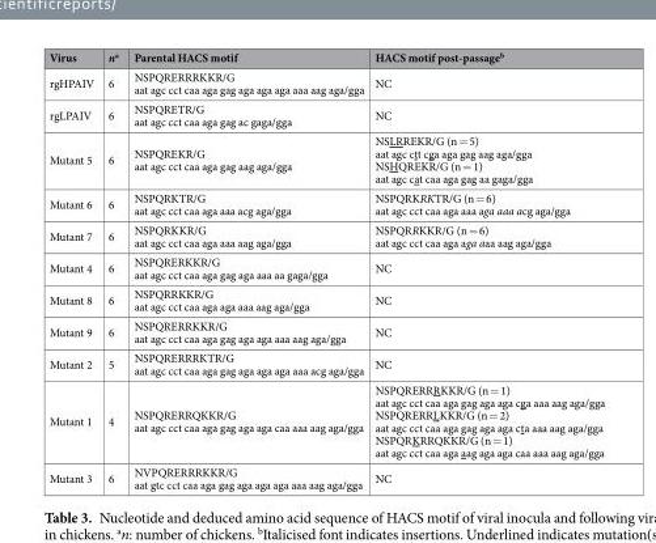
<table><thead><tr><td>Virus</td><td>n<sup>a</sup></td><td>Parental HACS motif</td><td>HACS motif post-passage<sup>b</sup></td></tr></thead><tbody><tr><td>rgHPAIV</td><td>6</td><td>NSPQRERRRKKR/G aat agc cct caa aga gag aga aga aga aaa aag aga/gga</td><td>NC</td></tr><tr><td>rgLPAIV</td><td>6</td><td>NSPQRETR/G aat agc cct caa aga gag ac gaga/gga</td><td>NC</td></tr><tr><td>Mutant 5</td><td>6</td><td>NSPQREKR/G aat agc cct caa aga gag aag aga/gga</td><td>NSLRREKR/G (n = 5) aat agc ctt cga aga gag aag aga/gga NSHQREKR/G (n = 1) aat agc cat caa aga gag aa gaga/gga</td></tr><tr><td>Mutant 6</td><td>6</td><td>NSPQRKTR/G aat agc cct caa aga aaa acg aga/gga</td><td>NSPQRKRKTR/G (n = 6) aat agc cct caa aga aaa aga aaa acg aga/gga</td></tr><tr><td>Mutant 7</td><td>6</td><td>NSPQRKKR/G aat agc cct caa aga aaa aag aga/gga</td><td>NSPQRRKKR/G (n = 6) aat agc cct caa aga aga aaa aag aga/gga</td></tr><tr><td>Mutant 4</td><td>6</td><td>NSPQRERKKR/G aat agc cct caa aga gag aga aaa aa gaga/gga</td><td>NC</td></tr><tr><td>Mutant 8</td><td>6</td><td>NSPQRRKKR/G aat agc cct caa aga aga aaa aag aga/gga</td><td>NC</td></tr><tr><td>Mutant 9</td><td>6</td><td>NSPQRERRKKR/G aat agc cct caa aga gag aga aga aaa aag aga/gga</td><td>NC</td></tr><tr><td>Mutant 2</td><td>5</td><td>NSPQRERRRKTR/G aat agc cct caa aga gag aga aga aga aaa acg aga/gga</td><td>NC</td></tr><tr><td>Mutant 1</td><td>4</td><td>NSPQRERRQKKR/G aat agc cct caa aga gag aga aga caa aaa aag aga/gga</td><td>NSPQRERRRKKR/G (n = 1) aat agc cct caa aga gag aga aga cga aaa aag aga/gga NSPQRERRLKKR/G (n = 2) aat agc cct caa aga gag aga aga cta aaa aag aga/gga NSPQRKRRQKKR/G (n = 1) aat agc cct caa aga aag aga aga caa aaa aag aga/gga</td></tr><tr><td>Mutant 3</td><td>6</td><td>NVPQRERRRKKR/G aat gtc cct caa aga gag aga aga aga aaa aag aga/gga</td><td>NC</td></tr></tbody></table>